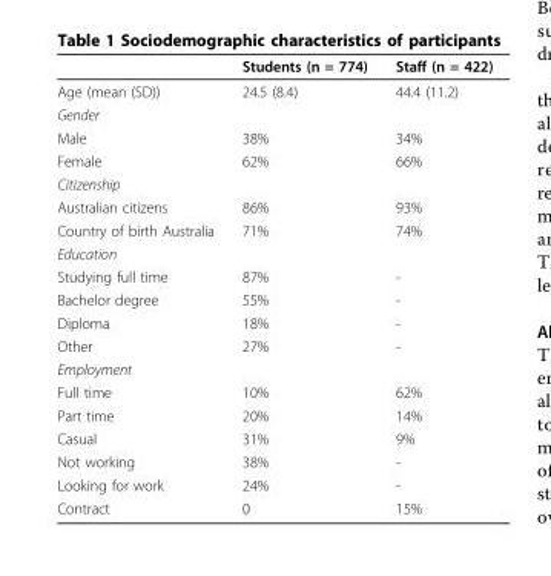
<table><thead><tr><td></td><td>Students (n = 774)</td><td>Staff (n = 422)</td></tr></thead><tbody><tr><td>Age (mean (SD))</td><td>24.5 (8.4)</td><td>44.4 (11.2)</td></tr><tr><td colspan="3">Gender</td></tr><tr><td>Male</td><td>38%</td><td>34%</td></tr><tr><td>Female</td><td>62%</td><td>66%</td></tr><tr><td colspan="3">Citizenship</td></tr><tr><td>Australian citizens</td><td>86%</td><td>93%</td></tr><tr><td>Country of birth Australia</td><td>71%</td><td>74%</td></tr><tr><td colspan="3">Education</td></tr><tr><td>Studying full time</td><td>87%</td><td>-</td></tr><tr><td>Bachelor degree</td><td>55%</td><td>-</td></tr><tr><td>Diploma</td><td>18%</td><td>-</td></tr><tr><td>Other</td><td>27%</td><td>-</td></tr><tr><td colspan="3">Employment</td></tr><tr><td>Full time</td><td>10%</td><td>62%</td></tr><tr><td>Part time</td><td>20%</td><td>14%</td></tr><tr><td>Casual</td><td>31%</td><td>9%</td></tr><tr><td>Not working</td><td>38%</td><td>-</td></tr><tr><td>Looking for work</td><td>24%</td><td>-</td></tr><tr><td>Contract</td><td>0</td><td>15%</td></tr></tbody></table>